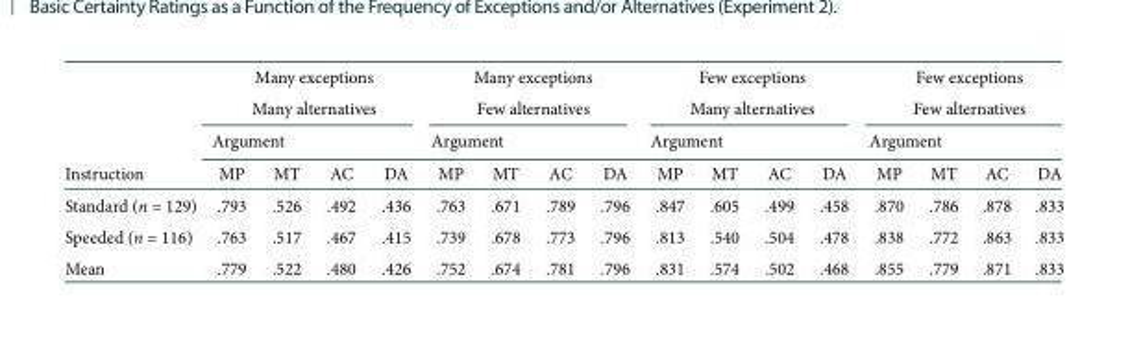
<table><thead><tr><td rowspan="4">Instruction</td><td rowspan="3" colspan="4">Many exceptions Many alternatives Argument</td><td rowspan="3" colspan="4">Many exceptions Few alternatives Argument</td><td rowspan="3" colspan="4">Few exceptions Many alternatives Argument</td><td rowspan="3" colspan="4">Few exceptions Few alternatives Argument</td></tr><tr></tr><tr></tr><tr><td>MP</td><td>MT</td><td>AC</td><td>DA</td><td>MP</td><td>MT</td><td>AC</td><td>DA</td><td>MP</td><td>MT</td><td>AC</td><td>DA</td><td>MP</td><td>MT</td><td>AC</td><td>DA</td></tr></thead><tbody><tr><td>Standard (n = 129)</td><td>.793</td><td>.526</td><td>.492</td><td>.436</td><td>.763</td><td>.671</td><td>.789</td><td>.796</td><td>.847</td><td>.605</td><td>.499</td><td>.458</td><td>.870</td><td>.786</td><td>.878</td><td>.833</td></tr><tr><td>Speeded (n = 116)</td><td>.763</td><td>.517</td><td>.467</td><td>.415</td><td>.739</td><td>.678</td><td>.773</td><td>.796</td><td>.813</td><td>.540</td><td>.504</td><td>.478</td><td>.838</td><td>.772</td><td>.863</td><td>.833</td></tr><tr><td>Mean</td><td>.779</td><td>.522</td><td>.480</td><td>.426</td><td>.752</td><td>.674</td><td>.781</td><td>.796</td><td>.831</td><td>.574</td><td>.502</td><td>.468</td><td>.855</td><td>.779</td><td>.871</td><td>.833</td></tr></tbody></table>